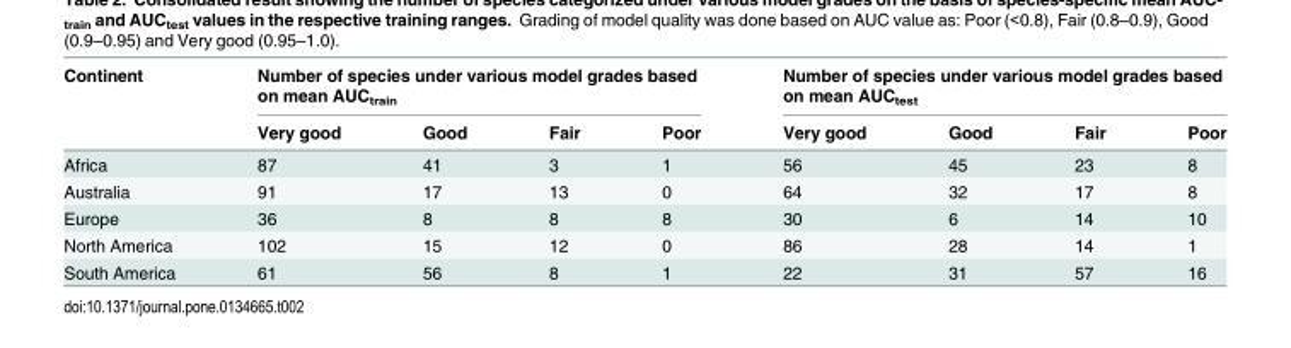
<table><thead><tr><td rowspan="2">Continent</td><td colspan="4">Number of species under various model grades based on mean AUC<sub>train</sub></td><td colspan="4">Number of species under various model grades based on mean AUC<sub>test</sub></td></tr><tr><td>Very good</td><td>Good</td><td>Fair</td><td>Poor</td><td>Very good</td><td>Good</td><td>Fair</td><td>Poor</td></tr></thead><tbody><tr><td>Africa</td><td>87</td><td>41</td><td>3</td><td>1</td><td>56</td><td>45</td><td>23</td><td>8</td></tr><tr><td>Australia</td><td>91</td><td>17</td><td>13</td><td>0</td><td>64</td><td>32</td><td>17</td><td>8</td></tr><tr><td>Europe</td><td>36</td><td>8</td><td>8</td><td>8</td><td>30</td><td>6</td><td>14</td><td>10</td></tr><tr><td>North America</td><td>102</td><td>15</td><td>12</td><td>0</td><td>86</td><td>28</td><td>14</td><td>1</td></tr><tr><td>South America</td><td>61</td><td>56</td><td>8</td><td>1</td><td>22</td><td>31</td><td>57</td><td>16</td></tr></tbody></table>